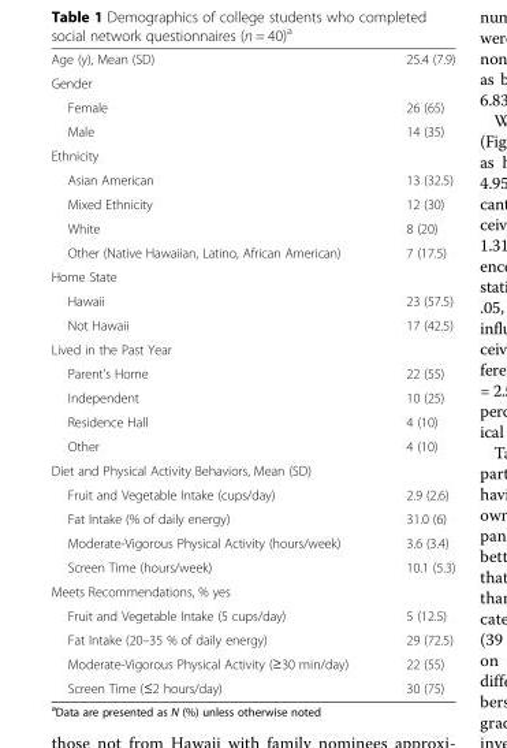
<table><tbody><tr><td>Age (y), Mean (SD)</td><td>25.4 (7.9)</td></tr><tr><td colspan="2">Gender</td></tr><tr><td>Female</td><td>26 (65)</td></tr><tr><td>Male</td><td>14 (35)</td></tr><tr><td colspan="2">Ethnicity</td></tr><tr><td>Asian American</td><td>13 (32.5)</td></tr><tr><td>Mixed Ethnicity</td><td>12 (30)</td></tr><tr><td>White</td><td>8 (20)</td></tr><tr><td>Other (Native Hawaiian, Latino, African American)</td><td>7 (17.5)</td></tr><tr><td colspan="2">Home State</td></tr><tr><td>Hawaii</td><td>23 (57.5)</td></tr><tr><td>Not Hawaii</td><td>17 (42.5)</td></tr><tr><td colspan="2">Lived in the Past Year</td></tr><tr><td>Parent’s Home</td><td>22 (55)</td></tr><tr><td>Independent</td><td>10 (25)</td></tr><tr><td>Residence Hall</td><td>4 (10)</td></tr><tr><td>Other</td><td>4 (10)</td></tr><tr><td colspan="2">Diet and Physical Activity Behaviors, Mean (SD)</td></tr><tr><td>Fruit and Vegetable Intake (cups/day)</td><td>2.9 (2.6)</td></tr><tr><td>Fat Intake (% of daily energy)</td><td>31.0 (6)</td></tr><tr><td>Moderate-Vigorous Physical Activity (hours/week)</td><td>3.6 (3.4)</td></tr><tr><td>Screen Time (hours/week)</td><td>10.1 (5.3)</td></tr><tr><td colspan="2">Meets Recommendations, % yes</td></tr><tr><td>Fruit and Vegetable Intake (5 cups/day)</td><td>5 (12.5)</td></tr><tr><td>Fat Intake (20–35 % of daily energy)</td><td>29 (72.5)</td></tr><tr><td>Moderate-Vigorous Physical Activity (≥30 min/day)</td><td>22 (55)</td></tr><tr><td>Screen Time (≤2 hours/day)</td><td>30 (75)</td></tr></tbody></table>